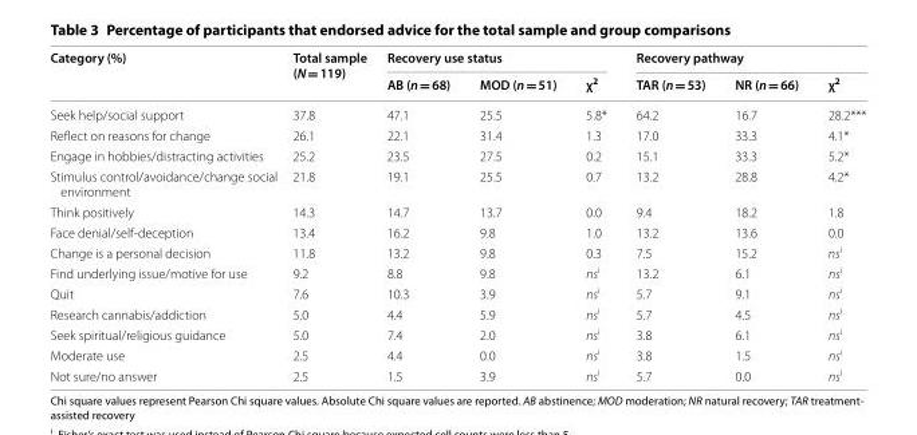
<table><thead><tr><td rowspan="2">Category (%)</td><td rowspan="2">Total sample (N = 119)</td><td colspan="3">Recovery use status</td><td colspan="3">Recovery pathway</td></tr><tr><td>AB (n = 68)</td><td>MOD (n = 51)</td><td>χ<sup>2</sup></td><td>TAR (n = 53)</td><td>NR (n = 66)</td><td>χ<sup>2</sup></td></tr></thead><tbody><tr><td>Seek help/social support</td><td>37.8</td><td>47.1</td><td>25.5</td><td>5.8*</td><td>64.2</td><td>16.7</td><td>28.2***</td></tr><tr><td>Reflect on reasons for change</td><td>26.1</td><td>22.1</td><td>31.4</td><td>1.3</td><td>17.0</td><td>33.3</td><td>4.1*</td></tr><tr><td>Engage in hobbies/distracting activities</td><td>25.2</td><td>23.5</td><td>27.5</td><td>0.2</td><td>15.1</td><td>33.3</td><td>5.2*</td></tr><tr><td>Stimulus control/avoidance/change social environment</td><td>21.8</td><td>19.1</td><td>25.5</td><td>0.7</td><td>13.2</td><td>28.8</td><td>4.2*</td></tr><tr><td>Think positively</td><td>14.3</td><td>14.7</td><td>13.7</td><td>0.0</td><td>9.4</td><td>18.2</td><td>1.8</td></tr><tr><td>Face denial/self-deception</td><td>13.4</td><td>16.2</td><td>9.8</td><td>1.0</td><td>13.2</td><td>13.6</td><td>0.0</td></tr><tr><td>Change is a personal decision</td><td>11.8</td><td>13.2</td><td>9.8</td><td>0.3</td><td>7.5</td><td>15.2</td><td>ns<sup>i</sup></td></tr><tr><td>Find underlying issue/motive for use</td><td>9.2</td><td>8.8</td><td>9.8</td><td>ns<sup>i</sup></td><td>13.2</td><td>6.1</td><td>ns<sup>i</sup></td></tr><tr><td>Quit</td><td>7.6</td><td>10.3</td><td>3.9</td><td>ns<sup>i</sup></td><td>5.7</td><td>9.1</td><td>ns<sup>i</sup></td></tr><tr><td>Research cannabis/addiction</td><td>5.0</td><td>4.4</td><td>5.9</td><td>ns<sup>i</sup></td><td>5.7</td><td>4.5</td><td>ns<sup>i</sup></td></tr><tr><td>Seek spiritual/religious guidance</td><td>5.0</td><td>7.4</td><td>2.0</td><td>ns<sup>i</sup></td><td>3.8</td><td>6.1</td><td>ns<sup>i</sup></td></tr><tr><td>Moderate use</td><td>2.5</td><td>4.4</td><td>0.0</td><td>ns<sup>i</sup></td><td>3.8</td><td>1.5</td><td>ns<sup>i</sup></td></tr><tr><td>Not sure/no answer</td><td>2.5</td><td>1.5</td><td>3.9</td><td>ns<sup>i</sup></td><td>5.7</td><td>0.0</td><td>ns<sup>i</sup></td></tr></tbody></table>